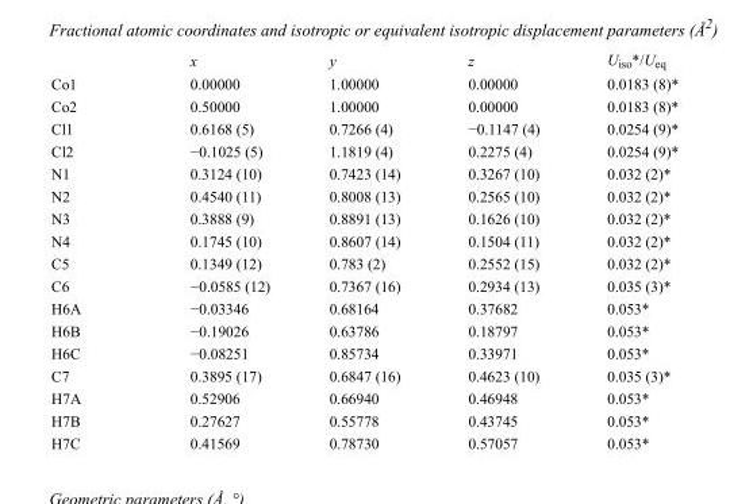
<table><thead><tr><td></td><td>x</td><td>y</td><td>z</td><td>U<sub>iso</sub>*/U<sub>eq</sub></td></tr></thead><tbody><tr><td>Co1</td><td>0.00000</td><td>1.00000</td><td>0.00000</td><td>0.0183 (8)*</td></tr><tr><td>Co2</td><td>0.50000</td><td>1.00000</td><td>0.00000</td><td>0.0183 (8)*</td></tr><tr><td>Cl1</td><td>0.6168 (5)</td><td>0.7266 (4)</td><td>−0.1147 (4)</td><td>0.0254 (9)*</td></tr><tr><td>Cl2</td><td>−0.1025 (5)</td><td>1.1819 (4)</td><td>0.2275 (4)</td><td>0.0254 (9)*</td></tr><tr><td>N1</td><td>0.3124 (10)</td><td>0.7423 (14)</td><td>0.3267 (10)</td><td>0.032 (2)*</td></tr><tr><td>N2</td><td>0.4540 (11)</td><td>0.8008 (13)</td><td>0.2565 (10)</td><td>0.032 (2)*</td></tr><tr><td>N3</td><td>0.3888 (9)</td><td>0.8891 (13)</td><td>0.1626 (10)</td><td>0.032 (2)*</td></tr><tr><td>N4</td><td>0.1745 (10)</td><td>0.8607 (14)</td><td>0.1504 (11)</td><td>0.032 (2)*</td></tr><tr><td>C5</td><td>0.1349 (12)</td><td>0.783 (2)</td><td>0.2552 (15)</td><td>0.032 (2)*</td></tr><tr><td>C6</td><td>−0.0585 (12)</td><td>0.7367 (16)</td><td>0.2934 (13)</td><td>0.035 (3)*</td></tr><tr><td>H6A</td><td>−0.03346</td><td>0.68164</td><td>0.37682</td><td>0.053*</td></tr><tr><td>H6B</td><td>−0.19026</td><td>0.63786</td><td>0.18797</td><td>0.053*</td></tr><tr><td>H6C</td><td>−0.08251</td><td>0.85734</td><td>0.33971</td><td>0.053*</td></tr><tr><td>C7</td><td>0.3895 (17)</td><td>0.6847 (16)</td><td>0.4623 (10)</td><td>0.035 (3)*</td></tr><tr><td>H7A</td><td>0.52906</td><td>0.66940</td><td>0.46948</td><td>0.053*</td></tr><tr><td>H7B</td><td>0.27627</td><td>0.55778</td><td>0.43745</td><td>0.053*</td></tr><tr><td>H7C</td><td>0.41569</td><td>0.78730</td><td>0.57057</td><td>0.053*</td></tr></tbody></table>